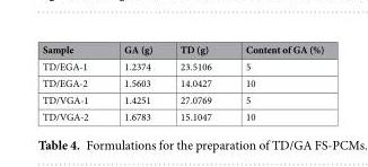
<table><thead><tr><td>Sample</td><td>GA (g)</td><td>TD (g)</td><td>Content of GA (%)</td></tr></thead><tbody><tr><td>TD/EGA-1</td><td>1.2374</td><td>23.5106</td><td>5</td></tr><tr><td>TD/EGA-2</td><td>1.5603</td><td>14.0427</td><td>10</td></tr><tr><td>TD/VGA-1</td><td>1.4251</td><td>27.0769</td><td>5</td></tr><tr><td>TD/VGA-2</td><td>1.6783</td><td>15.1047</td><td>10</td></tr></tbody></table>